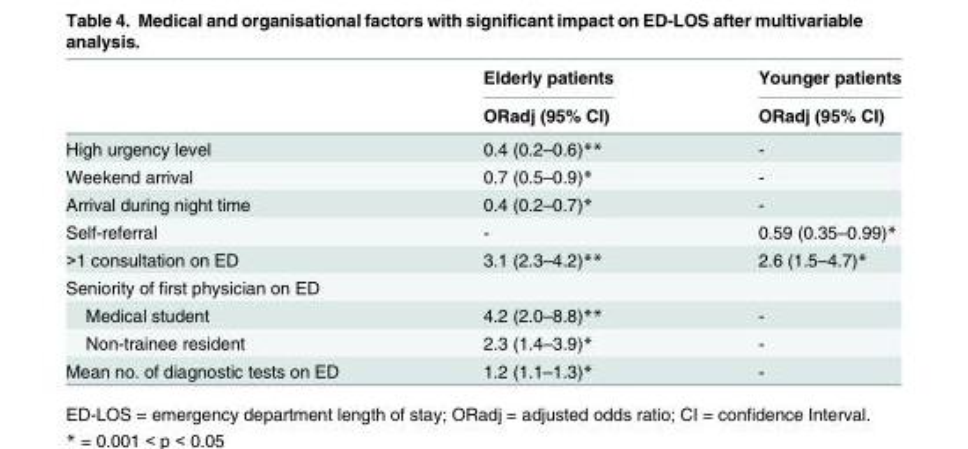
<table><thead><tr><td rowspan="2"></td><td rowspan="2">Elderly patients ORadj (95% CI)</td><td rowspan="2">Younger patients ORadj (95% CI)</td></tr><tr></tr></thead><tbody><tr><td>High urgency level</td><td>0.4 (0.2–0.6)**</td><td>-</td></tr><tr><td>Weekend arrival</td><td>0.7 (0.5–0.9)*</td><td>-</td></tr><tr><td>Arrival during night time</td><td>0.4 (0.2–0.7)*</td><td>-</td></tr><tr><td>Self-referral</td><td>-</td><td>0.59 (0.35–0.99)*</td></tr><tr><td>&gt;1 consultation on ED</td><td>3.1 (2.3–4.2)**</td><td>2.6 (1.5–4.7)*</td></tr><tr><td colspan="3">Seniority of first physician on ED</td></tr><tr><td>Medical student</td><td>4.2 (2.0–8.8)**</td><td>-</td></tr><tr><td>Non-trainee resident</td><td>2.3 (1.4–3.9)*</td><td>-</td></tr><tr><td>Mean no. of diagnostic tests on ED</td><td>1.2 (1.1–1.3)*</td><td>-</td></tr></tbody></table>